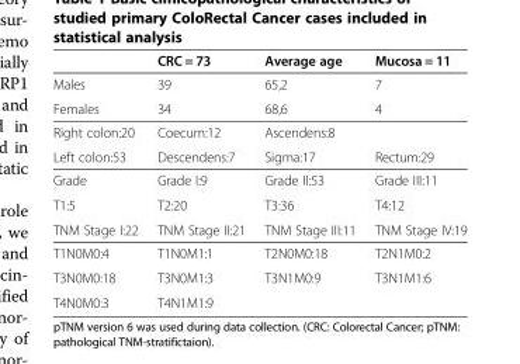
<table><thead><tr><td></td><td>CRC = 73</td><td>Average age</td><td>Mucosa = 11</td></tr></thead><tbody><tr><td>Males</td><td>39</td><td>65,2</td><td>7</td></tr><tr><td>Females</td><td>34</td><td>68,6</td><td>4</td></tr><tr><td>Right colon:20</td><td>Coecum:12</td><td>Ascendens:8</td><td></td></tr><tr><td>Left colon:53</td><td>Descendens:7</td><td>Sigma:17</td><td>Rectum:29</td></tr><tr><td>Grade</td><td>Grade I:9</td><td>Grade II:53</td><td>Grade III:11</td></tr><tr><td>T1:5</td><td>T2:20</td><td>T3:36</td><td>T4:12</td></tr><tr><td>TNM Stage I:22</td><td>TNM Stage II:21</td><td>TNM Stage III:11</td><td>TNM Stage IV:19</td></tr><tr><td>T1N0M0:4</td><td>T1N0M1:1</td><td>T2N0M0:18</td><td>T2N1M0:2</td></tr><tr><td>T3N0M0:18</td><td>T3N0M1:3</td><td>T3N1M0:9</td><td>T3N1M1:6</td></tr><tr><td>T4N0M0:3</td><td>T4N1M1:9</td><td></td><td></td></tr></tbody></table>